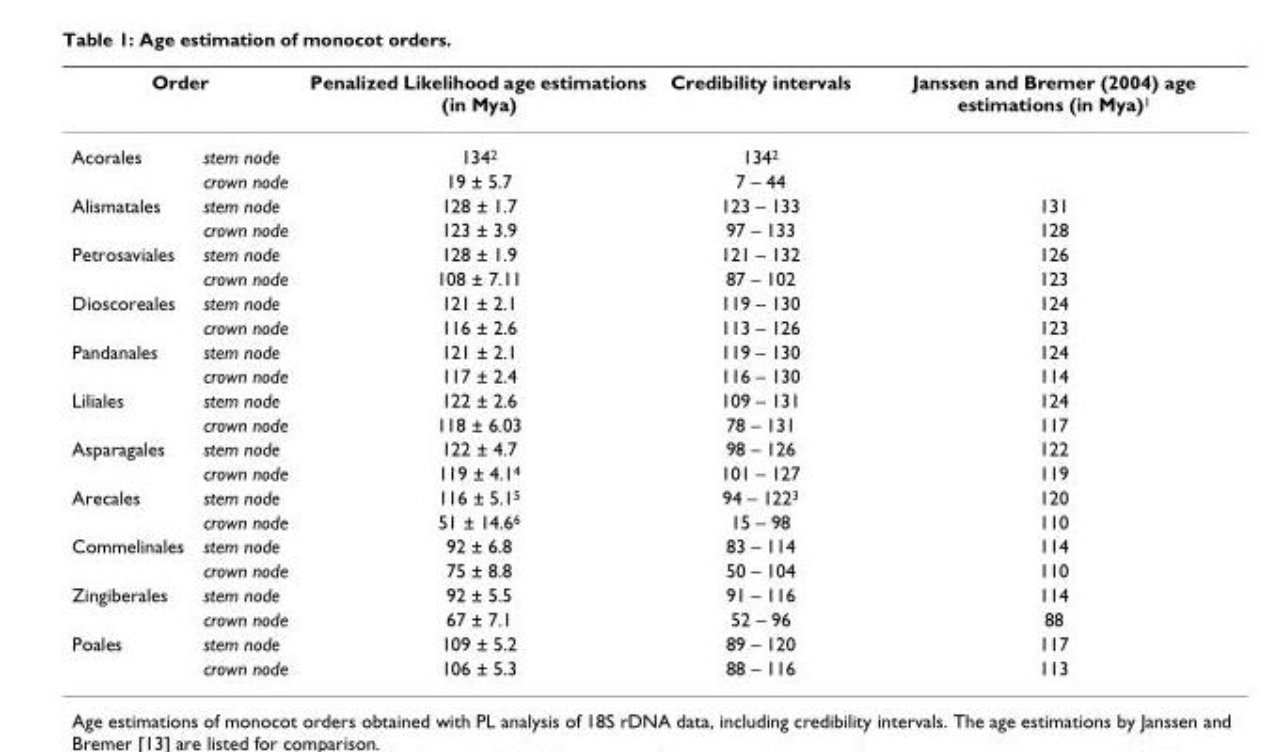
<table><thead><tr><td colspan="2">Order</td><td rowspan="2">Penalized Likelihood age estimations (in Mya) 134<sup>2</sup></td><td rowspan="2">Credibility intervals 134<sup>2</sup></td><td rowspan="2">Janssen and Bremer (2004) age estimations (in Mya)<sup>1</sup></td></tr><tr><td>Acorales</td><td>stem node</td></tr></thead><tbody><tr><td></td><td>crown node</td><td>19 ± 5.7</td><td>7 – 44</td><td></td></tr><tr><td rowspan="2">Alismatales</td><td>stem node</td><td>128 ± 1.7</td><td>123 – 133</td><td>131</td></tr><tr><td>crown node</td><td>123 ± 3.9</td><td>97 – 133</td><td>128</td></tr><tr><td rowspan="2">Petrosaviales</td><td>stem node</td><td>128 ± 1.9</td><td>121 – 132</td><td>126</td></tr><tr><td>crown node</td><td>108 ± 7.11</td><td>87 – 102</td><td>123</td></tr><tr><td rowspan="2">Dioscoreales</td><td>stem node</td><td>121 ± 2.1</td><td>119 – 130</td><td>124</td></tr><tr><td>crown node</td><td>116 ± 2.6</td><td>113 – 126</td><td>123</td></tr><tr><td rowspan="2">Pandanales</td><td>stem node</td><td>121 ± 2.1</td><td>119 – 130</td><td>124</td></tr><tr><td>crown node</td><td>117 ± 2.4</td><td>116 – 130</td><td>114</td></tr><tr><td rowspan="2">Liliales</td><td>stem node</td><td>122 ± 2.6</td><td>109 – 131</td><td>124</td></tr><tr><td>crown node</td><td>118 ± 6.03</td><td>78 – 131</td><td>117</td></tr><tr><td rowspan="2">Asparagales</td><td>stem node</td><td>122 ± 4.7</td><td>98 – 126</td><td>122</td></tr><tr><td>crown node</td><td>119 ± 4.1<sup>4</sup></td><td>101 – 127</td><td>119</td></tr><tr><td rowspan="2">Arecales</td><td>stem node</td><td>116 ± 5.1<sup>5</sup></td><td>94 – 122<sup>3</sup></td><td>120</td></tr><tr><td>crown node</td><td>51 ± 14.6<sup>6</sup></td><td>15 – 98</td><td>110</td></tr><tr><td rowspan="2">Commelinales</td><td>stem node</td><td>92 ± 6.8</td><td>83 – 114</td><td>114</td></tr><tr><td>crown node</td><td>75 ± 8.8</td><td>50 – 104</td><td>110</td></tr><tr><td rowspan="2">Zingiberales</td><td>stem node</td><td>92 ± 5.5</td><td>91 – 116</td><td>114</td></tr><tr><td>crown node</td><td>67 ± 7.1</td><td>52 – 96</td><td>88</td></tr><tr><td rowspan="2">Poales</td><td>stem node</td><td>109 ± 5.2</td><td>89 – 120</td><td>117</td></tr><tr><td>crown node</td><td>106 ± 5.3</td><td>88 – 116</td><td>113</td></tr></tbody></table>